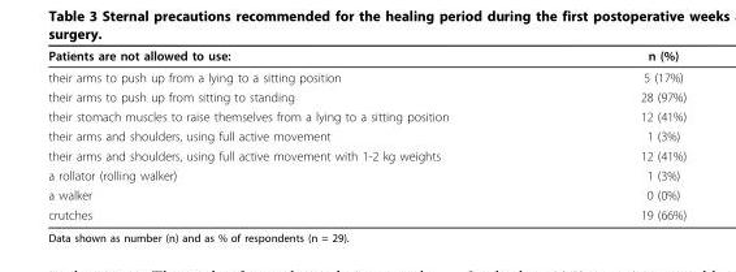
<table><thead><tr><td>Patients are not allowed to use:</td><td>n (%)</td></tr></thead><tbody><tr><td>their arms to push up from a lying to a sitting position</td><td>5 (17%)</td></tr><tr><td>their arms to push up from sitting to standing</td><td>28 (97%)</td></tr><tr><td>their stomach muscles to raise themselves from a lying to a sitting position</td><td>12 (41%)</td></tr><tr><td>their arms and shoulders, using full active movement</td><td>1 (3%)</td></tr><tr><td>their arms and shoulders, using full active movement with 1-2 kg weights</td><td>12 (41%)</td></tr><tr><td>a rollator (rolling walker)</td><td>1 (3%)</td></tr><tr><td>a walker</td><td>0 (0%)</td></tr><tr><td>crutches</td><td>19 (66%)</td></tr></tbody></table>